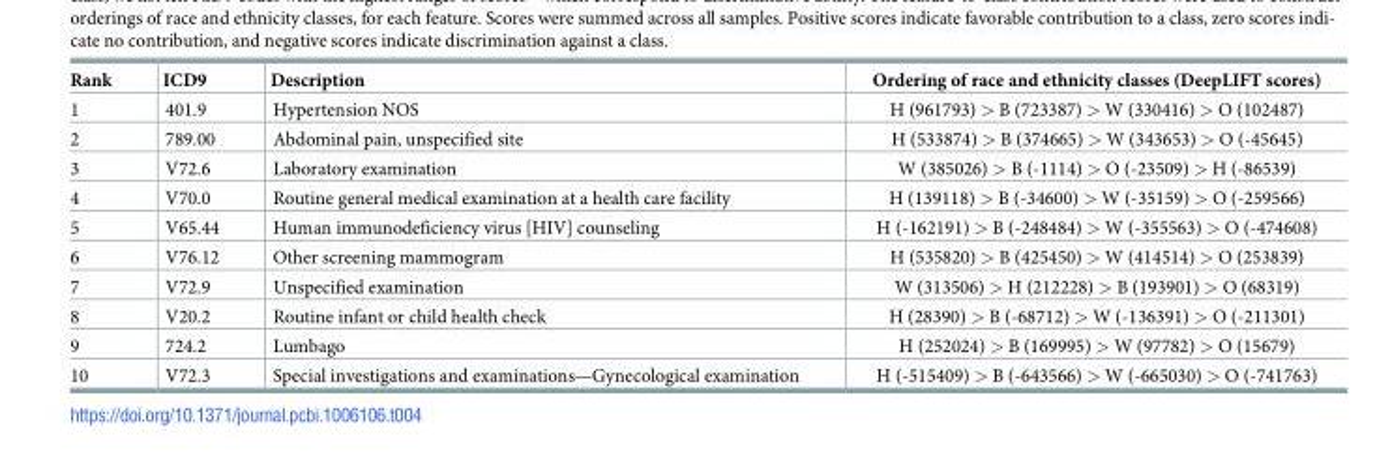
<table><thead><tr><td>Rank</td><td>ICD9</td><td>Description</td><td>Ordering of race and ethnicity classes (DeepLIFT scores)</td></tr></thead><tbody><tr><td>1</td><td>401.9</td><td>Hypertension NOS</td><td>H (961793) &gt; B (723387) &gt; W (330416) &gt; O (102487)</td></tr><tr><td>2</td><td>789.00</td><td>Abdominal pain, unspecified site</td><td>H (533874) &gt; B (374665) &gt; W (343653) &gt; O (-45645)</td></tr><tr><td>3</td><td>V72.6</td><td>Laboratory examination</td><td>W (385026) &gt; B (-1114) &gt; O (-23509) &gt; H (-86539)</td></tr><tr><td>4</td><td>V70.0</td><td>Routine general medical examination at a health care facility</td><td>H (139118) &gt; B (-34600) &gt; W (-35159) &gt; O (-259566)</td></tr><tr><td>5</td><td>V65.44</td><td>Human immunodeficiency virus [HIV] counseling</td><td>H (-162191) &gt; B (-248484) &gt; W (-355563) &gt; O (-474608)</td></tr><tr><td>6</td><td>V76.12</td><td>Other screening mammogram</td><td>H (535820) &gt; B (425450) &gt; W (414514) &gt; O (253839)</td></tr><tr><td>7</td><td>V72.9</td><td>Unspecified examination</td><td>W (313506) &gt; H (212228) &gt; B (193901) &gt; O (68319)</td></tr><tr><td>8</td><td>V20.2</td><td>Routine infant or child health check</td><td>H (28390) &gt; B (-68712) &gt; W (-136391) &gt; O (-211301)</td></tr><tr><td>9</td><td>724.2</td><td>Lumbago</td><td>H (252024) &gt; B (169995) &gt; W (97782) &gt; O (15679)</td></tr><tr><td>10</td><td>V72.3</td><td>Special investigations and examinations—Gynecological examination</td><td>H (-515409) &gt; B (-643566) &gt; W (-665030) &gt; O (-741763)</td></tr></tbody></table>